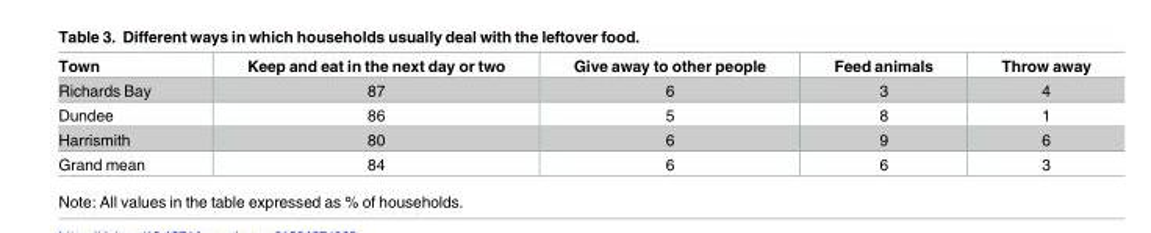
<table><thead><tr><td>Town</td><td>Keep and eat in the next day or two</td><td>Give away to other people</td><td>Feed animals</td><td>Throw away</td></tr></thead><tbody><tr><td>Richards Bay</td><td>87</td><td>6</td><td>3</td><td>4</td></tr><tr><td>Dundee</td><td>86</td><td>5</td><td>8</td><td>1</td></tr><tr><td>Harrismith</td><td>80</td><td>6</td><td>9</td><td>6</td></tr><tr><td>Grand mean</td><td>84</td><td>6</td><td>6</td><td>3</td></tr></tbody></table>